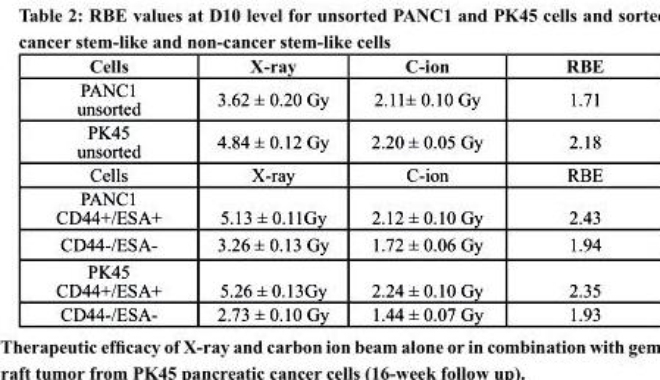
<table><thead><tr><td>Cells</td><td>X-ray</td><td>C-ion</td><td>RBE</td></tr></thead><tbody><tr><td>PANC1 unsorted</td><td>3.62 ± 0.20 Gy</td><td>2.11± 0.10 Gy</td><td>1.71</td></tr><tr><td>PK45 unsorted</td><td>4.84 ± 0.12 Gy</td><td>2.20 ± 0.05 Gy</td><td>2.18</td></tr><tr><td>Cells</td><td>X-ray</td><td>C-ion</td><td>RBE</td></tr><tr><td>PANC1 CD44+/ESA+</td><td>5.13 ± 0.11Gy</td><td>2.12 ± 0.10 Gy</td><td>2.43</td></tr><tr><td>CD44-/ESA-</td><td>3.26 ± 0.13 Gy</td><td>1.72 ± 0.06 Gy</td><td>1.94</td></tr><tr><td>PK45 CD44+/ESA+</td><td>5.26 ± 0.13Gy</td><td>2.24 ± 0.10 Gy</td><td>2.35</td></tr><tr><td>CD44-/ESA-</td><td>2.73 ± 0.10 Gy</td><td>1.44 ± 0.07 Gy</td><td>1.93</td></tr></tbody></table>